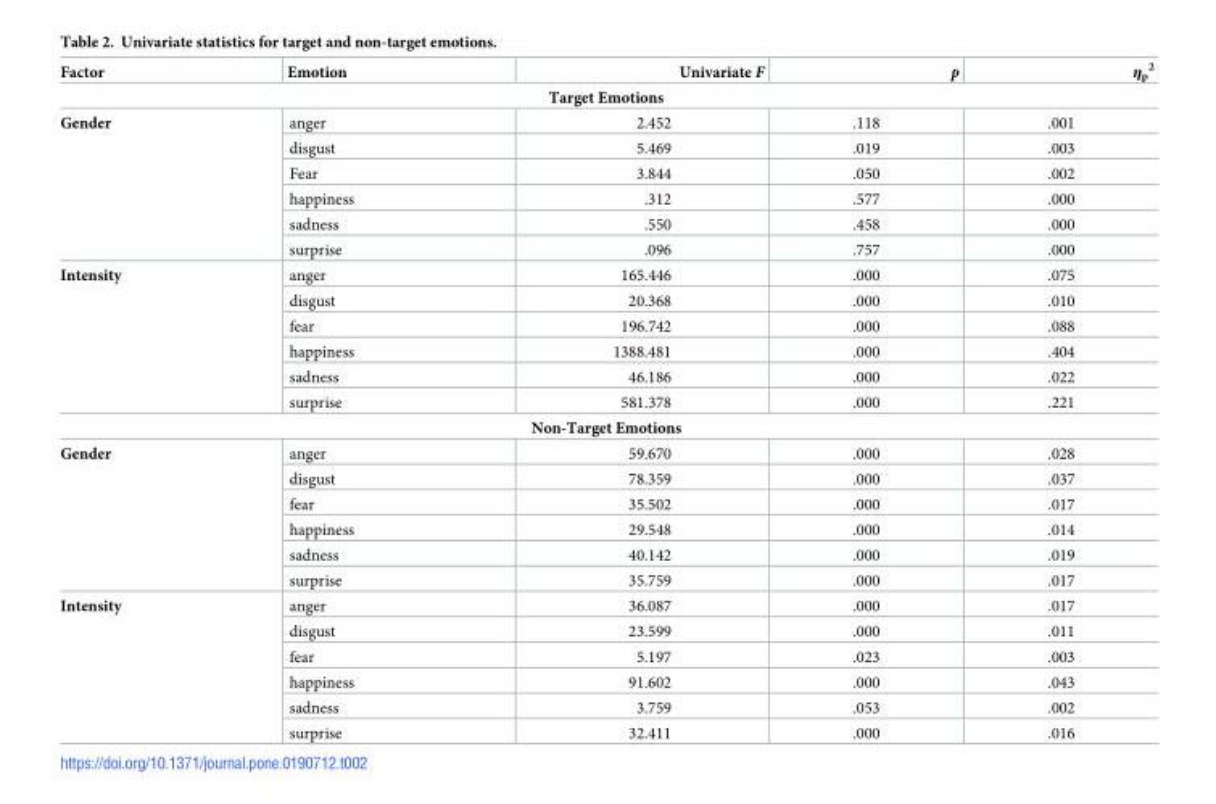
<table><thead><tr><td>Factor</td><td>Emotion</td><td>Univariate F</td><td>p</td><td>η<sub>p</sub> <sup>2</sup></td></tr></thead><tbody><tr><td colspan="5">Target Emotions</td></tr><tr><td rowspan="6">Gender</td><td>anger</td><td>2.452</td><td>.118</td><td>.001</td></tr><tr><td>disgust</td><td>5.469</td><td>.019</td><td>.003</td></tr><tr><td>Fear</td><td>3.844</td><td>.050</td><td>.002</td></tr><tr><td>happiness</td><td>.312</td><td>.577</td><td>.000</td></tr><tr><td>sadness</td><td>.550</td><td>.458</td><td>.000</td></tr><tr><td>surprise</td><td>.096</td><td>.757</td><td>.000</td></tr><tr><td rowspan="6">Intensity</td><td>anger</td><td>165.446</td><td>.000</td><td>.075</td></tr><tr><td>disgust</td><td>20.368</td><td>.000</td><td>.010</td></tr><tr><td>fear</td><td>196.742</td><td>.000</td><td>.088</td></tr><tr><td>happiness</td><td>1388.481</td><td>.000</td><td>.404</td></tr><tr><td>sadness</td><td>46.186</td><td>.000</td><td>.022</td></tr><tr><td>surprise</td><td>581.378</td><td>.000</td><td>.221</td></tr><tr><td colspan="5">Non-Target Emotions</td></tr><tr><td rowspan="6">Gender</td><td>anger</td><td>59.670</td><td>.000</td><td>.028</td></tr><tr><td>disgust</td><td>78.359</td><td>.000</td><td>.037</td></tr><tr><td>fear</td><td>35.502</td><td>.000</td><td>.017</td></tr><tr><td>happiness</td><td>29.548</td><td>.000</td><td>.014</td></tr><tr><td>sadness</td><td>40.142</td><td>.000</td><td>.019</td></tr><tr><td>surprise</td><td>35.759</td><td>.000</td><td>.017</td></tr><tr><td rowspan="6">Intensity</td><td>anger</td><td>36.087</td><td>.000</td><td>.017</td></tr><tr><td>disgust</td><td>23.599</td><td>.000</td><td>.011</td></tr><tr><td>fear</td><td>5.197</td><td>.023</td><td>.003</td></tr><tr><td>happiness</td><td>91.602</td><td>.000</td><td>.043</td></tr><tr><td>sadness</td><td>3.759</td><td>.053</td><td>.002</td></tr><tr><td>surprise</td><td>32.411</td><td>.000</td><td>.016</td></tr></tbody></table>